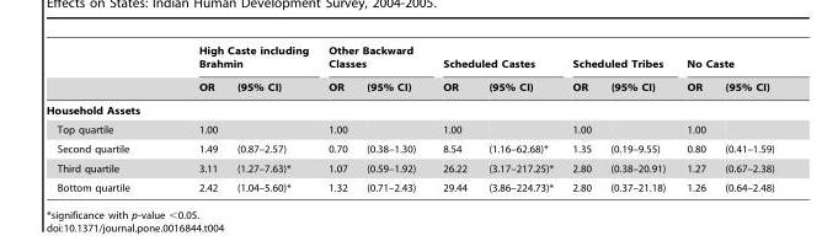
<table><thead><tr><td rowspan="2"></td><td colspan="2">High Caste including Brahmin</td><td colspan="2">Other Backward Classes</td><td colspan="2">Scheduled Castes</td><td colspan="2">Scheduled Tribes</td><td colspan="2">No Caste</td></tr><tr><td>OR</td><td>(95% CI)</td><td>OR</td><td>(95% CI)</td><td>OR</td><td>(95% CI)</td><td>OR</td><td>(95% CI)</td><td>OR</td><td>(95% CI)</td></tr></thead><tbody><tr><td colspan="11">Household Assets</td></tr><tr><td>Top quartile</td><td>1.00</td><td></td><td>1.00</td><td></td><td>1.00</td><td></td><td>1.00</td><td></td><td>1.00</td><td></td></tr><tr><td>Second quartile</td><td>1.49</td><td>(0.87–2.57)</td><td>0.70</td><td>(0.38–1.30)</td><td>8.54</td><td>(1.16–62.68)*</td><td>1.35</td><td>(0.19–9.55)</td><td>0.80</td><td>(0.41–1.59)</td></tr><tr><td>Third quartile</td><td>3.11</td><td>(1.27–7.63)*</td><td>1.07</td><td>(0.59–1.92)</td><td>26.22</td><td>(3.17–217.25)*</td><td>2.80</td><td>(0.38–20.91)</td><td>1.27</td><td>(0.67–2.38)</td></tr><tr><td>Bottom quartile</td><td>2.42</td><td>(1.04–5.60)*</td><td>1.32</td><td>(0.71–2.43)</td><td>29.44</td><td>(3.86–224.73)*</td><td>2.80</td><td>(0.37–21.18)</td><td>1.26</td><td>(0.64–2.48)</td></tr></tbody></table>